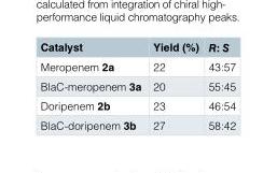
<table><thead><tr><td>Catalyst</td><td>Yield (%)</td><td>R: S</td></tr></thead><tbody><tr><td>Meropenem 2a</td><td>22</td><td>43:57</td></tr><tr><td>BlaC-meropenem 3a</td><td>20</td><td>55:45</td></tr><tr><td>Doripenem 2b</td><td>23</td><td>46:54</td></tr><tr><td>BlaC-doripenem 3b</td><td>27</td><td>58:42</td></tr></tbody></table>